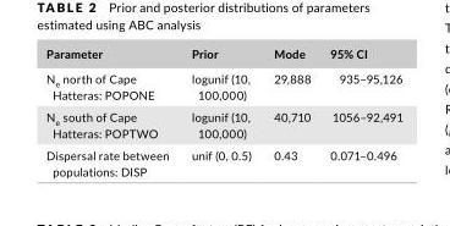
<table><thead><tr><td>Parameter</td><td>Prior</td><td>Mode</td><td>95% CI</td></tr></thead><tbody><tr><td>N<sub>e</sub> north of Cape Hatteras: POPONE</td><td>logunif (10, 100,000)</td><td>29,888</td><td>935–95,126</td></tr><tr><td>N<sub>e</sub> south of Cape Hatteras: POPTWO</td><td>logunif (10, 100,000)</td><td>40,710</td><td>1056–92,491</td></tr><tr><td>Dispersal rate between populations: DISP</td><td>unif (0, 0.5)</td><td>0.43</td><td>0.071–0.496</td></tr></tbody></table>